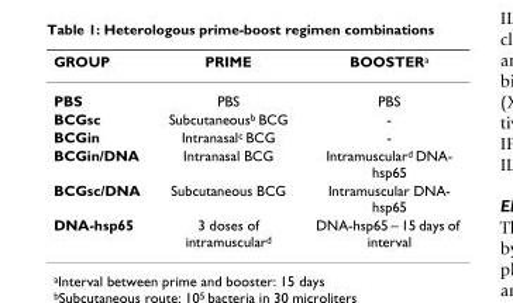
<table><thead><tr><td>GROUP</td><td>PRIME</td><td>BOOSTER<sup>a</sup></td></tr></thead><tbody><tr><td>PBS</td><td>PBS</td><td>PBS</td></tr><tr><td>BCGsc</td><td>Subcutaneous<sup>b</sup> BCG</td><td>-</td></tr><tr><td>BCGin</td><td>Intranasal<sup>c</sup> BCG</td><td>-</td></tr><tr><td>BCGin/DNA</td><td>Intranasal BCG</td><td>Intramuscular<sup>d</sup> DNA- hsp65</td></tr><tr><td>BCGsc/DNA</td><td>Subcutaneous BCG</td><td>Intramuscular DNA- hsp65</td></tr><tr><td>DNA-hsp65</td><td>3 doses of intramuscular<sup>d</sup></td><td>DNA-hsp65 – 15 days of interval</td></tr></tbody></table>